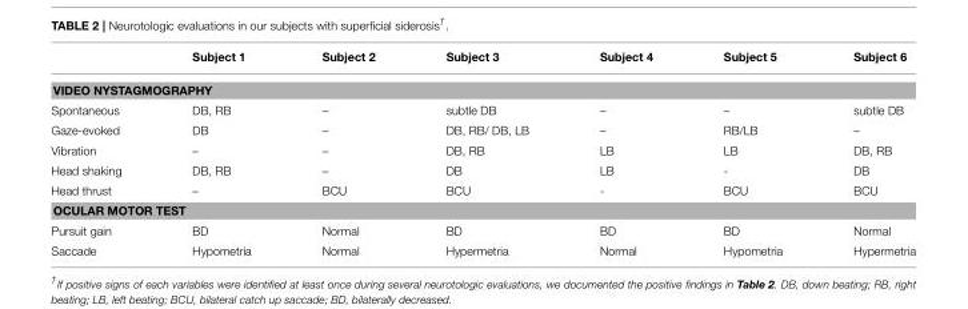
<table><thead><tr><td></td><td>Subject 1</td><td>Subject 2</td><td>Subject 3</td><td>Subject 4</td><td>Subject 5</td><td>Subject 6</td></tr></thead><tbody><tr><td colspan="7">VIDEO NYSTAGMOGRAPHY</td></tr><tr><td>Spontaneous</td><td>DB, RB</td><td>–</td><td>subtle DB</td><td>–</td><td>–</td><td>subtle DB</td></tr><tr><td>Gaze-evoked</td><td>DB</td><td>–</td><td>DB, RB/ DB, LB</td><td>–</td><td>RB/LB</td><td>–</td></tr><tr><td>Vibration</td><td>–</td><td>–</td><td>DB, RB</td><td>LB</td><td>LB</td><td>DB, RB</td></tr><tr><td>Head shaking</td><td>DB, RB</td><td>–</td><td>DB</td><td>LB</td><td>-</td><td>DB</td></tr><tr><td>Head thrust</td><td>–</td><td>BCU</td><td>BCU</td><td>-</td><td>BCU</td><td>BCU</td></tr><tr><td colspan="7">OCULAR MOTOR TEST</td></tr><tr><td>Pursuit gain</td><td>BD</td><td>Normal</td><td>BD</td><td>BD</td><td>BD</td><td>Normal</td></tr><tr><td>Saccade</td><td>Hypometria</td><td>Normal</td><td>Hypermetria</td><td>Normal</td><td>Hypometria</td><td>Hypermetria</td></tr></tbody></table>